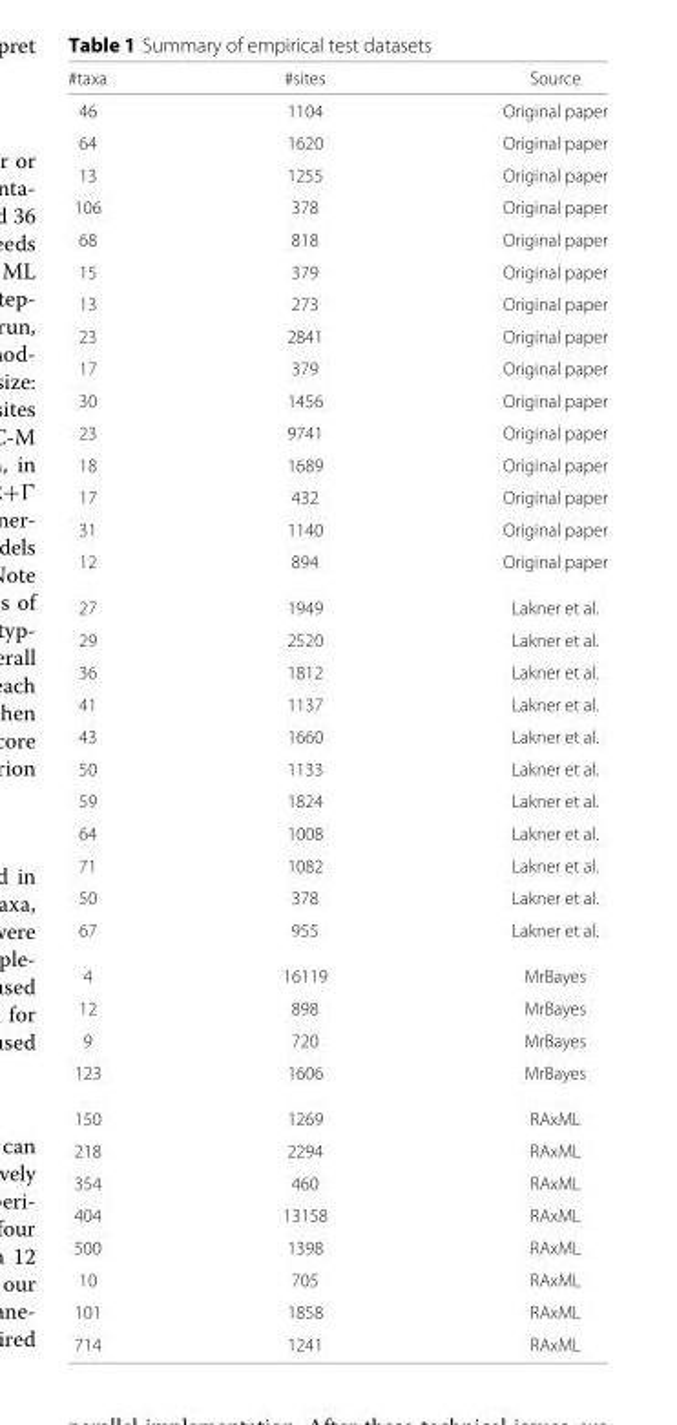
<table><thead><tr><td>#taxa</td><td>#sites</td><td>Source</td></tr></thead><tbody><tr><td>46</td><td>1104</td><td>Original paper</td></tr><tr><td>64</td><td>1620</td><td>Original paper</td></tr><tr><td>13</td><td>1255</td><td>Original paper</td></tr><tr><td>106</td><td>378</td><td>Original paper</td></tr><tr><td>68</td><td>818</td><td>Original paper</td></tr><tr><td>15</td><td>379</td><td>Original paper</td></tr><tr><td>13</td><td>273</td><td>Original paper</td></tr><tr><td>23</td><td>2841</td><td>Original paper</td></tr><tr><td>17</td><td>379</td><td>Original paper</td></tr><tr><td>30</td><td>1456</td><td>Original paper</td></tr><tr><td>23</td><td>9741</td><td>Original paper</td></tr><tr><td>18</td><td>1689</td><td>Original paper</td></tr><tr><td>17</td><td>432</td><td>Original paper</td></tr><tr><td>31</td><td>1140</td><td>Original paper</td></tr><tr><td>12</td><td>894</td><td>Original paper</td></tr><tr><td>27</td><td>1949</td><td>Lakner et al.</td></tr><tr><td>29</td><td>2520</td><td>Lakner et al.</td></tr><tr><td>36</td><td>1812</td><td>Lakner et al.</td></tr><tr><td>41</td><td>1137</td><td>Lakner et al.</td></tr><tr><td>43</td><td>1660</td><td>Lakner et al.</td></tr><tr><td>50</td><td>1133</td><td>Lakner et al.</td></tr><tr><td>59</td><td>1824</td><td>Lakner et al.</td></tr><tr><td>64</td><td>1008</td><td>Lakner et al.</td></tr><tr><td>71</td><td>1082</td><td>Lakner et al.</td></tr><tr><td>50</td><td>378</td><td>Lakner et al.</td></tr><tr><td>67</td><td>955</td><td>Lakner et al.</td></tr><tr><td>4</td><td>16119</td><td>MrBayes</td></tr><tr><td>12</td><td>898</td><td>MrBayes</td></tr><tr><td>9</td><td>720</td><td>MrBayes</td></tr><tr><td>123</td><td>1606</td><td>MrBayes</td></tr><tr><td>150</td><td>1269</td><td>RAxML</td></tr><tr><td>218</td><td>2294</td><td>RAxML</td></tr><tr><td>354</td><td>460</td><td>RAxML</td></tr><tr><td>404</td><td>13158</td><td>RAxML</td></tr><tr><td>500</td><td>1398</td><td>RAxML</td></tr><tr><td>10</td><td>705</td><td>RAxML</td></tr><tr><td>101</td><td>1858</td><td>RAxML</td></tr><tr><td>714</td><td>1241</td><td>RAxML</td></tr></tbody></table>